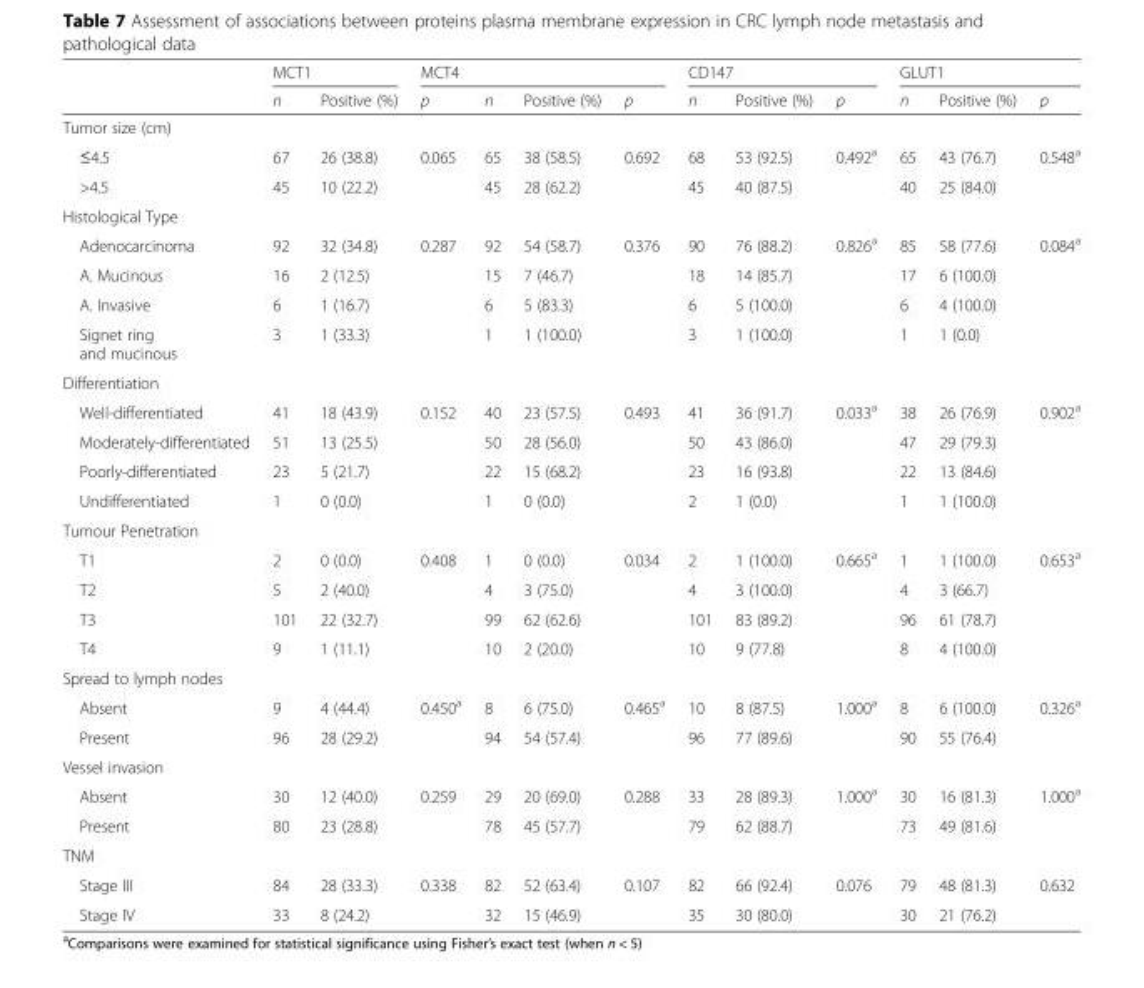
<table><thead><tr><td rowspan="2"></td><td colspan="2">MCT1</td><td colspan="4">MCT4</td><td colspan="3">CD147</td><td colspan="3">GLUT1</td></tr><tr><td>n</td><td>Positive (%)</td><td>p</td><td>n</td><td>Positive (%)</td><td>p</td><td>n</td><td>Positive (%)</td><td>p</td><td>n</td><td>Positive (%)</td><td>p</td></tr></thead><tbody><tr><td colspan="13">Tumor size (cm)</td></tr><tr><td>≤4.5</td><td>67</td><td>26 (38.8)</td><td>0.065</td><td>65</td><td>38 (58.5)</td><td>0.692</td><td>68</td><td>53 (92.5)</td><td>0.492<sup>a</sup></td><td>65</td><td>43 (76.7)</td><td>0.548<sup>a</sup></td></tr><tr><td>&gt;4.5</td><td>45</td><td>10 (22.2)</td><td></td><td>45</td><td>28 (62.2)</td><td></td><td>45</td><td>40 (87.5)</td><td></td><td>40</td><td>25 (84.0)</td><td></td></tr><tr><td colspan="13">Histological Type</td></tr><tr><td>Adenocarcinoma</td><td>92</td><td>32 (34.8)</td><td>0.287</td><td>92</td><td>54 (58.7)</td><td>0.376</td><td>90</td><td>76 (88.2)</td><td>0.826<sup>a</sup></td><td>85</td><td>58 (77.6)</td><td>0.084<sup>a</sup></td></tr><tr><td>A. Mucinous</td><td>16</td><td>2 (12.5)</td><td></td><td>15</td><td>7 (46.7)</td><td></td><td>18</td><td>14 (85.7)</td><td></td><td>17</td><td>6 (100.0)</td><td></td></tr><tr><td>A. Invasive</td><td>6</td><td>1 (16.7)</td><td></td><td>6</td><td>5 (83.3)</td><td></td><td>6</td><td>5 (100.0)</td><td></td><td>6</td><td>4 (100.0)</td><td></td></tr><tr><td>Signet ring and mucinous</td><td>3</td><td>1 (33.3)</td><td></td><td>1</td><td>1 (100.0)</td><td></td><td>3</td><td>1 (100.0)</td><td></td><td>1</td><td>1 (0.0)</td><td></td></tr><tr><td colspan="13">Differentiation</td></tr><tr><td>Well-differentiated</td><td>41</td><td>18 (43.9)</td><td>0.152</td><td>40</td><td>23 (57.5)</td><td>0.493</td><td>41</td><td>36 (91.7)</td><td>0.033<sup>a</sup></td><td>38</td><td>26 (76.9)</td><td>0.902<sup>a</sup></td></tr><tr><td>Moderately-differentiated</td><td>51</td><td>13 (25.5)</td><td></td><td>50</td><td>28 (56.0)</td><td></td><td>50</td><td>43 (86.0)</td><td></td><td>47</td><td>29 (79.3)</td><td></td></tr><tr><td>Poorly-differentiated</td><td>23</td><td>5 (21.7)</td><td></td><td>22</td><td>15 (68.2)</td><td></td><td>23</td><td>16 (93.8)</td><td></td><td>22</td><td>13 (84.6)</td><td></td></tr><tr><td>Undifferentiated</td><td>1</td><td>0 (0.0)</td><td></td><td>1</td><td>0 (0.0)</td><td></td><td>2</td><td>1 (0.0)</td><td></td><td>1</td><td>1 (100.0)</td><td></td></tr><tr><td colspan="13">Tumour Penetration</td></tr><tr><td>T1</td><td>2</td><td>0 (0.0)</td><td>0.408</td><td>1</td><td>0 (0.0)</td><td>0.034</td><td>2</td><td>1 (100.0)</td><td>0.665<sup>a</sup></td><td>1</td><td>1 (100.0)</td><td>0.653<sup>a</sup></td></tr><tr><td>T2</td><td>5</td><td>2 (40.0)</td><td></td><td>4</td><td>3 (75.0)</td><td></td><td>4</td><td>3 (100.0)</td><td></td><td>4</td><td>3 (66.7)</td><td></td></tr><tr><td>T3</td><td>101</td><td>22 (32.7)</td><td></td><td>99</td><td>62 (62.6)</td><td></td><td>101</td><td>83 (89.2)</td><td></td><td>96</td><td>61 (78.7)</td><td></td></tr><tr><td>T4</td><td>9</td><td>1 (11.1)</td><td></td><td>10</td><td>2 (20.0)</td><td></td><td>10</td><td>9 (77.8)</td><td></td><td>8</td><td>4 (100.0)</td><td></td></tr><tr><td colspan="13">Spread to lymph nodes</td></tr><tr><td>Absent</td><td>9</td><td>4 (44.4)</td><td>0.450<sup>a</sup></td><td>8</td><td>6 (75.0)</td><td>0.465<sup>a</sup></td><td>10</td><td>8 (87.5)</td><td>1.000<sup>a</sup></td><td>8</td><td>6 (100.0)</td><td>0.326<sup>a</sup></td></tr><tr><td>Present</td><td>96</td><td>28 (29.2)</td><td></td><td>94</td><td>54 (57.4)</td><td></td><td>96</td><td>77 (89.6)</td><td></td><td>90</td><td>55 (76.4)</td><td></td></tr><tr><td colspan="13">Vessel invasion</td></tr><tr><td>Absent</td><td>30</td><td>12 (40.0)</td><td>0.259</td><td>29</td><td>20 (69.0)</td><td>0.288</td><td>33</td><td>28 (89.3)</td><td>1.000<sup>a</sup></td><td>30</td><td>16 (81.3)</td><td>1.000<sup>a</sup></td></tr><tr><td>Present</td><td>80</td><td>23 (28.8)</td><td></td><td>78</td><td>45 (57.7)</td><td></td><td>79</td><td>62 (88.7)</td><td></td><td>73</td><td>49 (81.6)</td><td></td></tr><tr><td colspan="13">TNM</td></tr><tr><td>Stage III</td><td>84</td><td>28 (33.3)</td><td>0.338</td><td>82</td><td>52 (63.4)</td><td>0.107</td><td>82</td><td>66 (92.4)</td><td>0.076</td><td>79</td><td>48 (81.3)</td><td>0.632</td></tr><tr><td>Stage IV</td><td>33</td><td>8 (24.2)</td><td></td><td>32</td><td>15 (46.9)</td><td></td><td>35</td><td>30 (80.0)</td><td></td><td>30</td><td>21 (76.2)</td><td></td></tr></tbody></table>